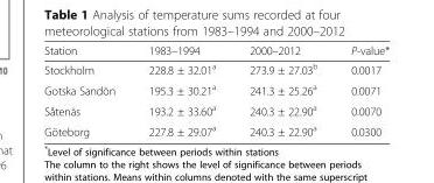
<table><thead><tr><td>Station</td><td>1983–1994</td><td>2000–2012</td><td>P-value*</td></tr></thead><tbody><tr><td>Stockholm</td><td>228.8 ± 32.01<sup>a</sup></td><td>273.9 ± 27.03<sup>b</sup></td><td>0.0017</td></tr><tr><td>Gotska Sandön</td><td>195.3 ± 30.21<sup>a</sup></td><td>241.3 ± 25.26<sup>a</sup></td><td>0.0071</td></tr><tr><td>Såtenäs</td><td>193.2 ± 33.60<sup>a</sup></td><td>240.3 ± 22.90<sup>a</sup></td><td>0.0070</td></tr><tr><td>Göteborg</td><td>227.8 ± 29.07<sup>a</sup></td><td>240.3 ± 22.90<sup>a</sup></td><td>0.0300</td></tr></tbody></table>